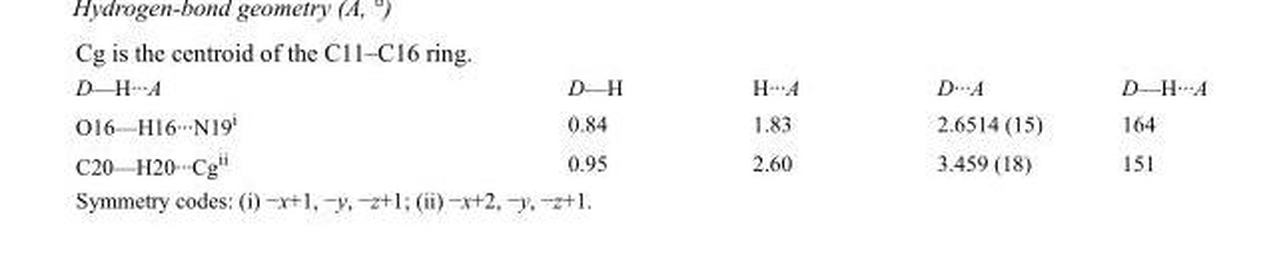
<table><tbody><tr><td>D—H···A</td><td>D—H</td><td>H···A</td><td>D···A</td><td>D—H···A</td></tr><tr><td>O16—H16···N19<sup>i</sup></td><td>0.84</td><td>1.83</td><td>2.6514 (15)</td><td>164</td></tr><tr><td>C20—H20···Cg<sup>ii</sup></td><td>0.95</td><td>2.60</td><td>3.459 (18)</td><td>151</td></tr></tbody></table>